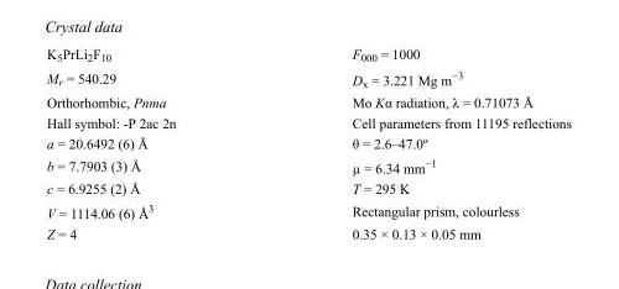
<table><tbody><tr><td>K<sub>5</sub>PrLi<sub>2</sub>F<sub>10</sub></td><td>F000 = 1000</td></tr><tr><td>M<sub>r</sub> = 540.29</td><td>D<sub>x</sub> = 3.221 Mg m<sup>−3</sup></td></tr><tr><td>Orthorhombic, Pnma</td><td>Mo Kα radiation, λ = 0.71073 Å</td></tr><tr><td>Hall symbol: -P 2ac 2n</td><td>Cell parameters from 11195 reflections</td></tr><tr><td>a = 20.6492 (6) Å</td><td>θ = 2.6–47.0º</td></tr><tr><td>b = 7.7903 (3) Å</td><td>µ = 6.34 mm<sup>−1</sup></td></tr><tr><td>c = 6.9255 (2) Å</td><td>T = 295 K</td></tr><tr><td>V = 1114.06 (6) Å<sup>3</sup></td><td>Rectangular prism, colourless</td></tr><tr><td>Z = 4</td><td>0.35 × 0.13 × 0.05 mm</td></tr></tbody></table>